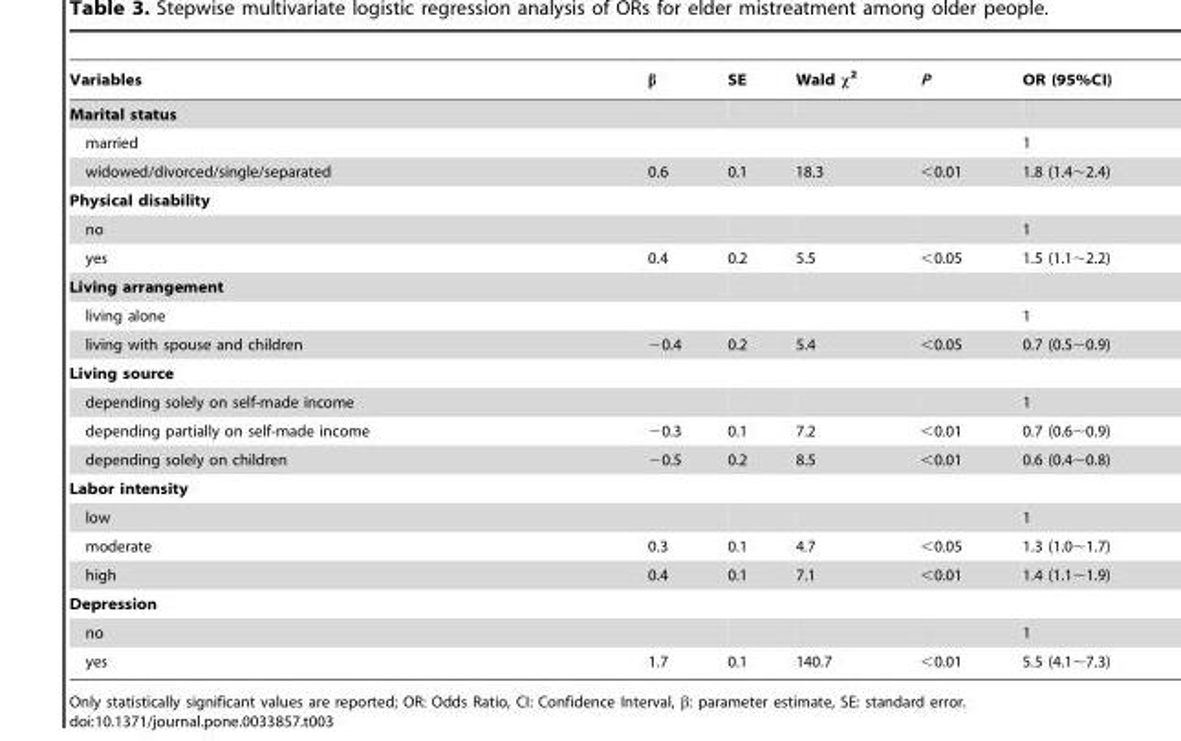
<table><thead><tr><td>Variables</td><td>β</td><td>SE</td><td>Wald χ<sup>2</sup></td><td>P</td><td>OR (95%CI)</td></tr></thead><tbody><tr><td colspan="6">Marital status</td></tr><tr><td>married</td><td></td><td></td><td></td><td></td><td>1</td></tr><tr><td>widowed/divorced/single/separated</td><td>0.6</td><td>0.1</td><td>18.3</td><td>&lt;0.01</td><td>1.8 (1.4∼2.4)</td></tr><tr><td colspan="6">Physical disability</td></tr><tr><td>no</td><td></td><td></td><td></td><td></td><td>1</td></tr><tr><td>yes</td><td>0.4</td><td>0.2</td><td>5.5</td><td>&lt;0.05</td><td>1.5 (1.1∼2.2)</td></tr><tr><td colspan="6">Living arrangement</td></tr><tr><td>living alone</td><td></td><td></td><td></td><td></td><td>1</td></tr><tr><td>living with spouse and children</td><td>−0.4</td><td>0.2</td><td>5.4</td><td>&lt;0.05</td><td>0.7 (0.5∼0.9)</td></tr><tr><td colspan="6">Living source</td></tr><tr><td>depending solely on self-made income</td><td></td><td></td><td></td><td></td><td>1</td></tr><tr><td>depending partially on self-made income</td><td>−0.3</td><td>0.1</td><td>7.2</td><td>&lt;0.01</td><td>0.7 (0.6∼0.9)</td></tr><tr><td>depending solely on children</td><td>−0.5</td><td>0.2</td><td>8.5</td><td>&lt;0.01</td><td>0.6 (0.4∼0.8)</td></tr><tr><td colspan="6">Labor intensity</td></tr><tr><td>low</td><td></td><td></td><td></td><td></td><td>1</td></tr><tr><td>moderate</td><td>0.3</td><td>0.1</td><td>4.7</td><td>&lt;0.05</td><td>1.3 (1.0∼1.7)</td></tr><tr><td>high</td><td>0.4</td><td>0.1</td><td>7.1</td><td>&lt;0.01</td><td>1.4 (1.1∼1.9)</td></tr><tr><td colspan="6">Depression</td></tr><tr><td>no</td><td></td><td></td><td></td><td></td><td>1</td></tr><tr><td>yes</td><td>1.7</td><td>0.1</td><td>140.7</td><td>&lt;0.01</td><td>5.5 (4.1∼7.3)</td></tr></tbody></table>